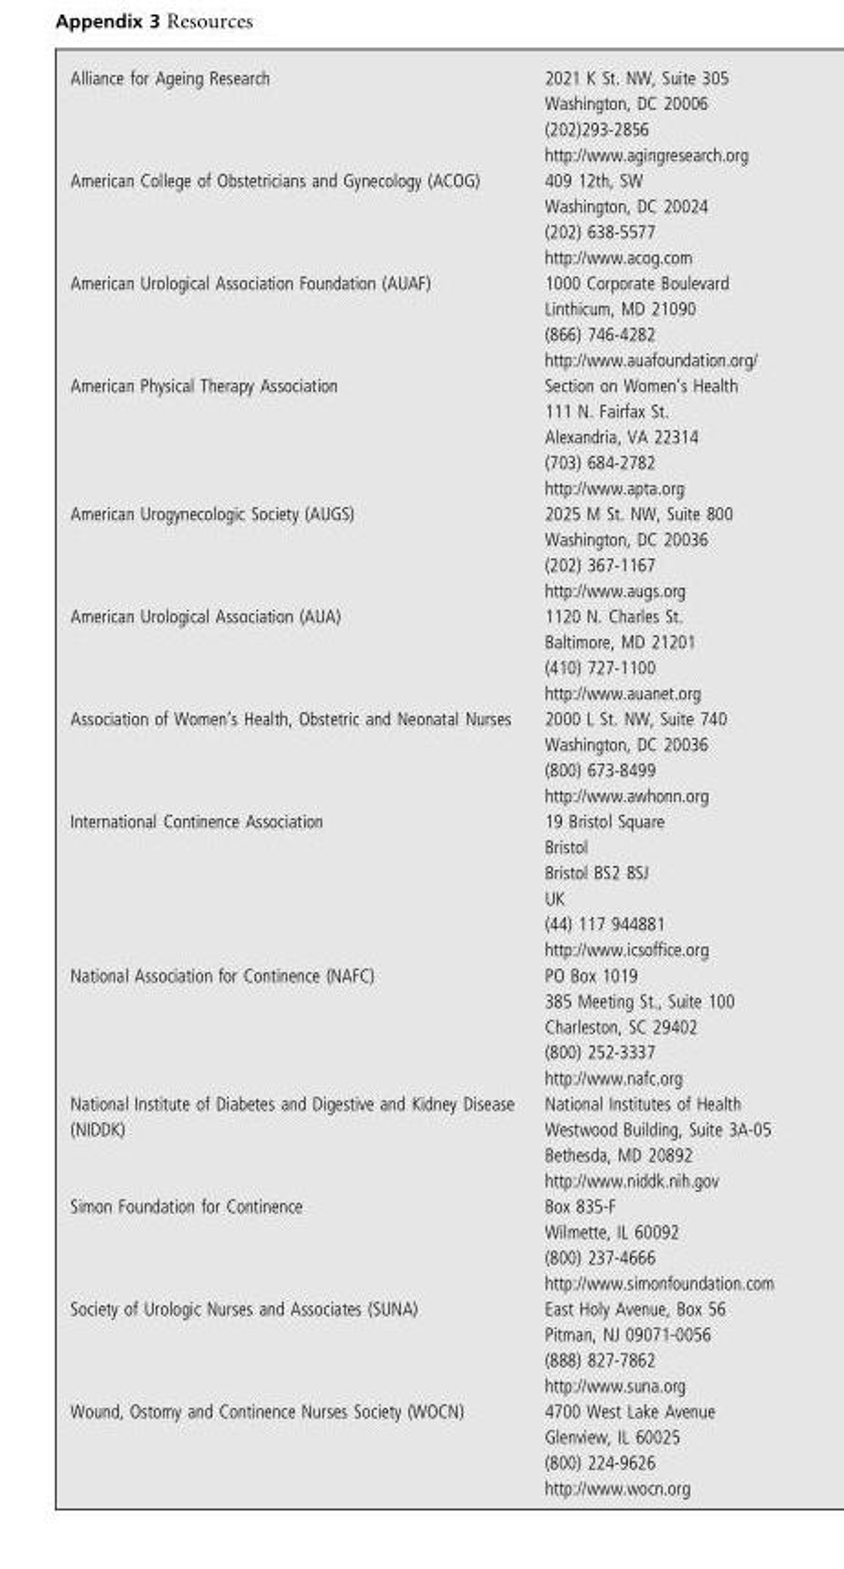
<table><tbody><tr><td>Alliance for Ageing Research</td><td>2021 K St. NW, Suite 305 Washington, DC 20006 (202)293-2856 http://www.agingresearch.org</td></tr><tr><td>American College of Obstetricians and Gynecology (ACOG)</td><td>409 12th, SW Washington, DC 20024 (202) 638-5577 http://www.acog.com</td></tr><tr><td>American Urological Association Foundation (AUAF)</td><td>1000 Corporate Boulevard Linthicum, MD 21090 (866) 746-4282 http://www.auafoundation.org/</td></tr><tr><td>American Physical Therapy Association</td><td>Section on Women’s Health 111 N. Fairfax St. Alexandria, VA 22314 (703) 684-2782 http://www.apta.org</td></tr><tr><td>American Urogynecologic Society (AUGS)</td><td>2025 M St. NW, Suite 800 Washington, DC 20036 (202) 367-1167 http://www.augs.org</td></tr><tr><td>American Urological Association (AUA)</td><td>1120 N. Charles St. Baltimore, MD 21201 (410) 727-1100 http://www.auanet.org</td></tr><tr><td>Association of Women’s Health, Obstetric and Neonatal Nurses</td><td>2000 L St. NW, Suite 740 Washington, DC 20036 (800) 673-8499 http://www.awhonn.org</td></tr><tr><td>International Continence Association</td><td>19 Bristol Square Bristol Bristol BS2 8SJ UK (44) 117 944881 http://www.icsoffice.org</td></tr><tr><td>National Association for Continence (NAFC)</td><td>PO Box 1019 385 Meeting St., Suite 100 Charleston, SC 29402 (800) 252-3337 http://www.nafc.org</td></tr><tr><td>National Institute of Diabetes and Digestive and Kidney Disease (NIDDK)</td><td>National Institutes of Health Westwood Building, Suite 3A-05 Bethesda, MD 20892 http://www.niddk.nih.gov</td></tr><tr><td>Simon Foundation for Continence</td><td>Box 835-F Wilmette, IL 60092 (800) 237-4666 http://www.simonfoundation.com</td></tr><tr><td>Society of Urologic Nurses and Associates (SUNA)</td><td>East Holy Avenue, Box 56 Pitman, NJ 09071-0056 (888) 827-7862 http://www.suna.org</td></tr><tr><td>Wound, Ostomy and Continence Nurses Society (WOCN)</td><td>4700 West Lake Avenue Glenview, IL 60025 (800) 224-9626 http://www.wocn.org</td></tr></tbody></table>